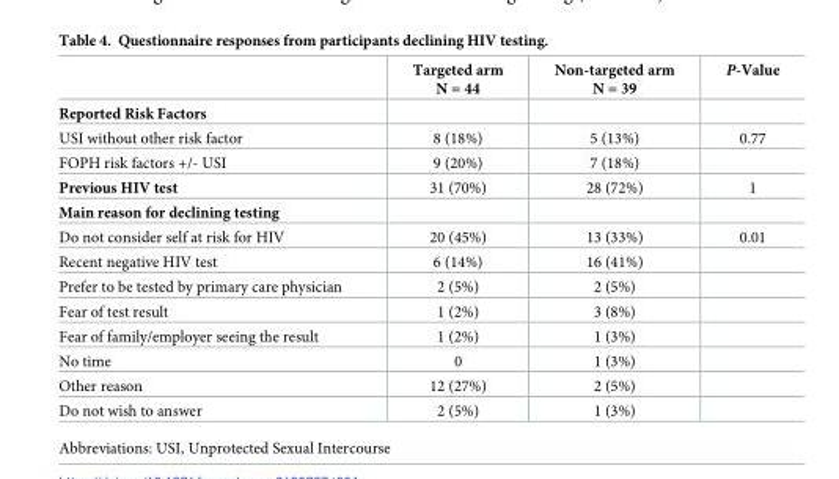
<table><thead><tr><td></td><td>Targeted arm N = 44</td><td>Non-targeted arm N = 39</td><td>P-Value</td></tr></thead><tbody><tr><td colspan="4">Reported Risk Factors</td></tr><tr><td>USI without other risk factor</td><td>8 (18%)</td><td>5 (13%)</td><td>0.77</td></tr><tr><td>FOPH risk factors +/- USI</td><td>9 (20%)</td><td>7 (18%)</td><td></td></tr><tr><td>Previous HIV test</td><td>31 (70%)</td><td>28 (72%)</td><td>1</td></tr><tr><td colspan="4">Main reason for declining testing</td></tr><tr><td>Do not consider self at risk for HIV</td><td>20 (45%)</td><td>13 (33%)</td><td>0.01</td></tr><tr><td>Recent negative HIV test</td><td>6 (14%)</td><td>16 (41%)</td><td></td></tr><tr><td>Prefer to be tested by primary care physician</td><td>2 (5%)</td><td>2 (5%)</td><td></td></tr><tr><td>Fear of test result</td><td>1 (2%)</td><td>3 (8%)</td><td></td></tr><tr><td>Fear of family/employer seeing the result</td><td>1 (2%)</td><td>1 (3%)</td><td></td></tr><tr><td>No time</td><td>0</td><td>1 (3%)</td><td></td></tr><tr><td>Other reason</td><td>12 (27%)</td><td>2 (5%)</td><td></td></tr><tr><td>Do not wish to answer</td><td>2 (5%)</td><td>1 (3%)</td><td></td></tr></tbody></table>